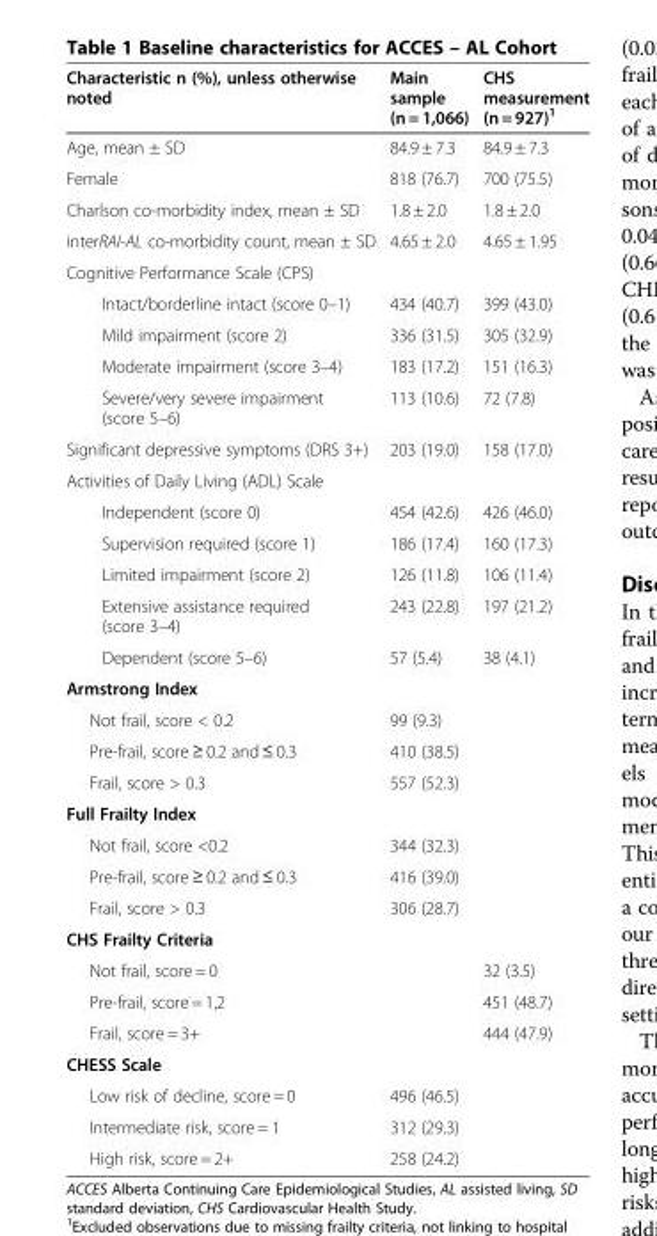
<table><thead><tr><td>Characteristic n (%), unless otherwise noted</td><td>Main sample (n = 1,066)</td><td>CHS measurement (n = 927)<sup>1</sup></td></tr></thead><tbody><tr><td>Age, mean ± SD</td><td>84.9 ± 7.3</td><td>84.9 ± 7.3</td></tr><tr><td>Female</td><td>818 (76.7)</td><td>700 (75.5)</td></tr><tr><td>Charlson co-morbidity index, mean ± SD</td><td>1.8 ± 2.0</td><td>1.8 ± 2.0</td></tr><tr><td>interRAI-AL co-morbidity count, mean ± SD</td><td>4.65 ± 2.0</td><td>4.65 ± 1.95</td></tr><tr><td colspan="3">Cognitive Performance Scale (CPS)</td></tr><tr><td>Intact/borderline intact (score 0–1)</td><td>434 (40.7)</td><td>399 (43.0)</td></tr><tr><td>Mild impairment (score 2)</td><td>336 (31.5)</td><td>305 (32.9)</td></tr><tr><td>Moderate impairment (score 3–4)</td><td>183 (17.2)</td><td>151 (16.3)</td></tr><tr><td>Severe/very severe impairment (score 5–6)</td><td>113 (10.6)</td><td>72 (7.8)</td></tr><tr><td>Significant depressive symptoms (DRS 3+)</td><td>203 (19.0)</td><td>158 (17.0)</td></tr><tr><td colspan="3">Activities of Daily Living (ADL) Scale</td></tr><tr><td>Independent (score 0)</td><td>454 (42.6)</td><td>426 (46.0)</td></tr><tr><td>Supervision required (score 1)</td><td>186 (17.4)</td><td>160 (17.3)</td></tr><tr><td>Limited impairment (score 2)</td><td>126 (11.8)</td><td>106 (11.4)</td></tr><tr><td>Extensive assistance required (score 3–4)</td><td>243 (22.8)</td><td>197 (21.2)</td></tr><tr><td>Dependent (score 5–6)</td><td>57 (5.4)</td><td>38 (4.1)</td></tr><tr><td colspan="3">Armstrong Index</td></tr><tr><td>Not frail, score &lt; 0.2</td><td>99 (9.3)</td><td></td></tr><tr><td>Pre-frail, score ≥ 0.2 and ≤ 0.3</td><td>410 (38.5)</td><td></td></tr><tr><td>Frail, score &gt; 0.3</td><td>557 (52.3)</td><td></td></tr><tr><td colspan="3">Full Frailty Index</td></tr><tr><td>Not frail, score &lt;0.2</td><td>344 (32.3)</td><td></td></tr><tr><td>Pre-frail, score ≥ 0.2 and ≤ 0.3</td><td>416 (39.0)</td><td></td></tr><tr><td>Frail, score &gt; 0.3</td><td>306 (28.7)</td><td></td></tr><tr><td colspan="3">CHS Frailty Criteria</td></tr><tr><td>Not frail, score = 0</td><td></td><td>32 (3.5)</td></tr><tr><td>Pre-frail, score = 1,2</td><td></td><td>451 (48.7)</td></tr><tr><td>Frail, score = 3+</td><td></td><td>444 (47.9)</td></tr><tr><td colspan="3">CHESS Scale</td></tr><tr><td>Low risk of decline, score = 0</td><td>496 (46.5)</td><td></td></tr><tr><td>Intermediate risk, score = 1</td><td>312 (29.3)</td><td></td></tr><tr><td>High risk, score = 2+</td><td>258 (24.2)</td><td></td></tr></tbody></table>